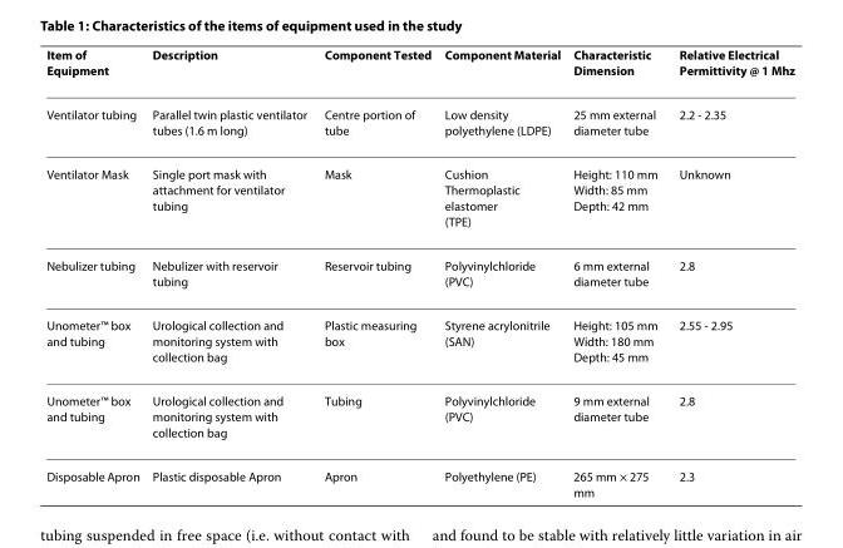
<table><thead><tr><td>Item of Equipment</td><td>Description</td><td>Component Tested</td><td>Component Material</td><td>Characteristic Dimension</td><td>Relative Electrical Permittivity @ 1 Mhz</td></tr></thead><tbody><tr><td>Ventilator tubing</td><td>Parallel twin plastic ventilator tubes (1.6 m long)</td><td>Centre portion of tube</td><td>Low density polyethylene (LDPE)</td><td>25 mm external diameter tube</td><td>2.2 - 2.35</td></tr><tr><td>Ventilator Mask</td><td>Single port mask with attachment for ventilator tubing</td><td>Mask</td><td>Cushion Thermoplastic elastomer (TPE)</td><td>Height: 110 mm Width: 85 mm Depth: 42 mm</td><td>Unknown</td></tr><tr><td>Nebulizer tubing</td><td>Nebulizer with reservoir tubing</td><td>Reservoir tubing</td><td>Polyvinylchloride (PVC)</td><td>6 mm external diameter tube</td><td>2.8</td></tr><tr><td>Unometer™ box and tubing</td><td>Urological collection and monitoring system with collection bag</td><td>Plastic measuring box</td><td>Styrene acrylonitrile (SAN)</td><td>Height: 105 mm Width: 180 mm Depth: 45 mm</td><td>2.55 - 2.95</td></tr><tr><td>Unometer™ box and tubing</td><td>Urological collection and monitoring system with collection bag</td><td>Tubing</td><td>Polyvinylchloride (PVC)</td><td>9 mm external diameter tube</td><td>2.8</td></tr><tr><td>Disposable Apron</td><td>Plastic disposable Apron</td><td>Apron</td><td>Polyethylene (PE)</td><td>265 mm × 275 mm</td><td>2.3</td></tr></tbody></table>